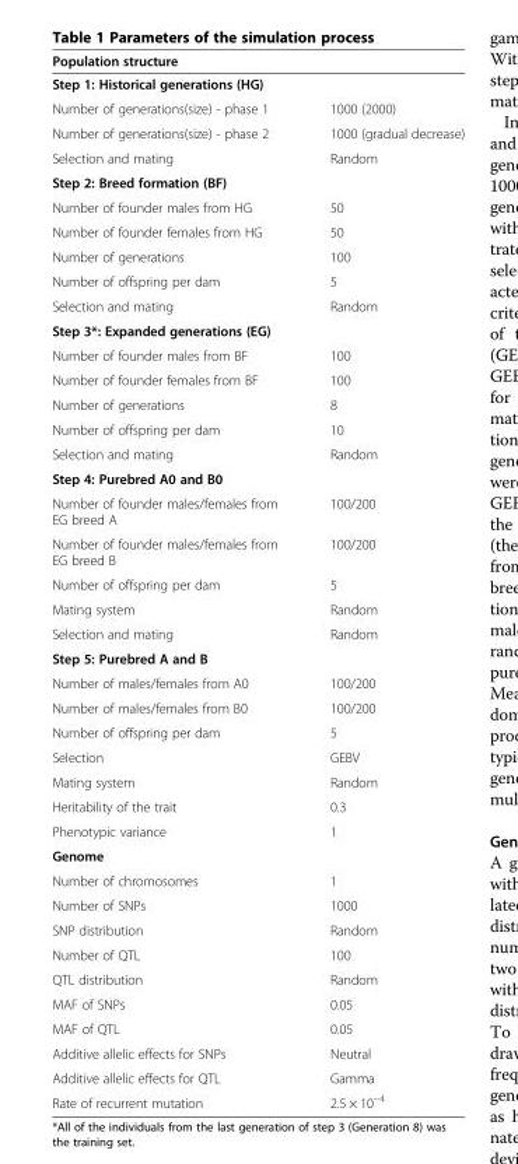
<table><thead><tr><td>Population structure</td><td></td></tr></thead><tbody><tr><td colspan="2">Step 1: Historical generations (HG)</td></tr><tr><td>Number of generations(size) - phase 1</td><td>1000 (2000)</td></tr><tr><td>Number of generations(size) - phase 2</td><td>1000 (gradual decrease)</td></tr><tr><td>Selection and mating</td><td>Random</td></tr><tr><td colspan="2">Step 2: Breed formation (BF)</td></tr><tr><td>Number of founder males from HG</td><td>50</td></tr><tr><td>Number of founder females from HG</td><td>50</td></tr><tr><td>Number of generations</td><td>100</td></tr><tr><td>Number of offspring per dam</td><td>5</td></tr><tr><td>Selection and mating</td><td>Random</td></tr><tr><td colspan="2">Step 3*: Expanded generations (EG)</td></tr><tr><td>Number of founder males from BF</td><td>100</td></tr><tr><td>Number of founder females from BF</td><td>100</td></tr><tr><td>Number of generations</td><td>8</td></tr><tr><td>Number of offspring per dam</td><td>10</td></tr><tr><td>Selection and mating</td><td>Random</td></tr><tr><td colspan="2">Step 4: Purebred A0 and B0</td></tr><tr><td>Number of founder males/females from EG breed A</td><td>100/200</td></tr><tr><td>Number of founder males/females from EG breed B</td><td>100/200</td></tr><tr><td>Number of offspring per dam</td><td>5</td></tr><tr><td>Mating system</td><td>Random</td></tr><tr><td>Selection and mating</td><td>Random</td></tr><tr><td colspan="2">Step 5: Purebred A and B</td></tr><tr><td>Number of males/females from A0</td><td>100/200</td></tr><tr><td>Number of males/females from B0</td><td>100/200</td></tr><tr><td>Number of offspring per dam</td><td>5</td></tr><tr><td>Selection</td><td>GEBV</td></tr><tr><td>Mating system</td><td>Random</td></tr><tr><td>Heritability of the trait</td><td>0.3</td></tr><tr><td>Phenotypic variance</td><td>1</td></tr><tr><td colspan="2">Genome</td></tr><tr><td>Number of chromosomes</td><td>1</td></tr><tr><td>Number of SNPs</td><td>1000</td></tr><tr><td>SNP distribution</td><td>Random</td></tr><tr><td>Number of QTL</td><td>100</td></tr><tr><td>QTL distribution</td><td>Random</td></tr><tr><td>MAF of SNPs</td><td>0.05</td></tr><tr><td>MAF of QTL</td><td>0.05</td></tr><tr><td>Additive allelic effects for SNPs</td><td>Neutral</td></tr><tr><td>Additive allelic effects for QTL</td><td>Gamma</td></tr><tr><td>Rate of recurrent mutation</td><td>2.5 × 10<sup>−4</sup></td></tr></tbody></table>